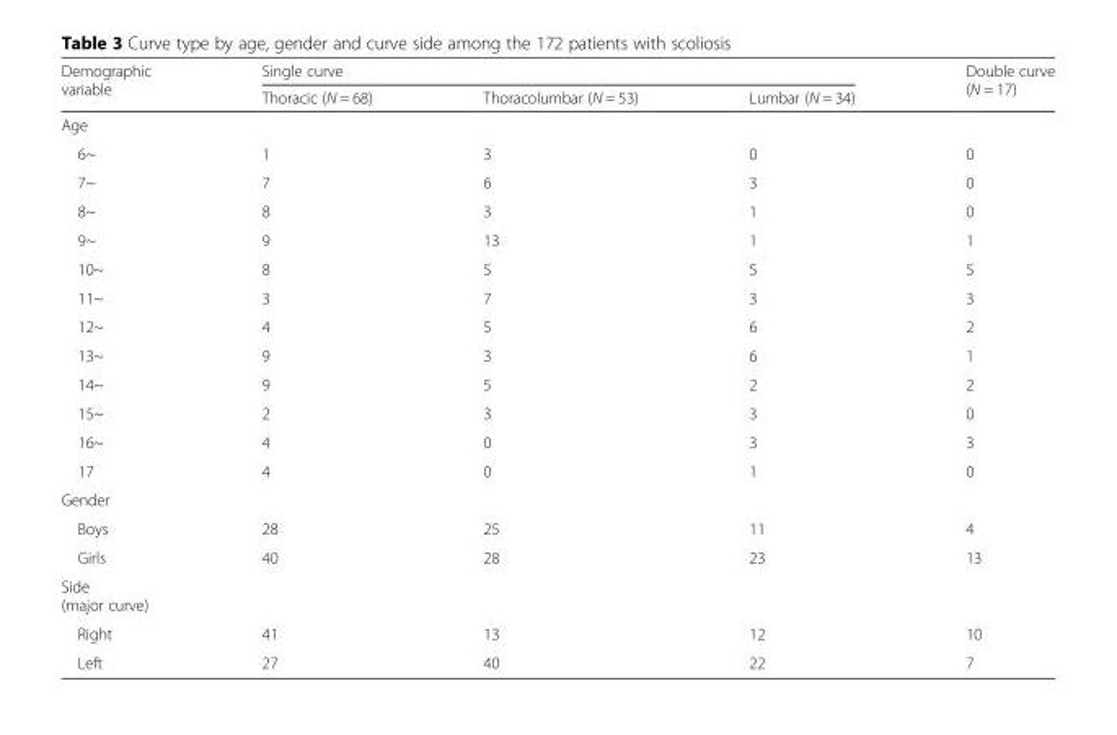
<table><thead><tr><td rowspan="2">Demographic variable</td><td colspan="3">Single curve</td><td rowspan="2">Double curve (N = 17)</td></tr><tr><td>Thoracic (N = 68)</td><td>Thoracolumbar (N = 53)</td><td>Lumbar (N = 34)</td></tr></thead><tbody><tr><td colspan="5">Age</td></tr><tr><td>6~</td><td>1</td><td>3</td><td>0</td><td>0</td></tr><tr><td>7~</td><td>7</td><td>6</td><td>3</td><td>0</td></tr><tr><td>8~</td><td>8</td><td>3</td><td>1</td><td>0</td></tr><tr><td>9~</td><td>9</td><td>13</td><td>1</td><td>1</td></tr><tr><td>10~</td><td>8</td><td>5</td><td>5</td><td>5</td></tr><tr><td>11~</td><td>3</td><td>7</td><td>3</td><td>3</td></tr><tr><td>12~</td><td>4</td><td>5</td><td>6</td><td>2</td></tr><tr><td>13~</td><td>9</td><td>3</td><td>6</td><td>1</td></tr><tr><td>14~</td><td>9</td><td>5</td><td>2</td><td>2</td></tr><tr><td>15~</td><td>2</td><td>3</td><td>3</td><td>0</td></tr><tr><td>16~</td><td>4</td><td>0</td><td>3</td><td>3</td></tr><tr><td>17</td><td>4</td><td>0</td><td>1</td><td>0</td></tr><tr><td colspan="5">Gender</td></tr><tr><td>Boys</td><td>28</td><td>25</td><td>11</td><td>4</td></tr><tr><td>Girls</td><td>40</td><td>28</td><td>23</td><td>13</td></tr><tr><td colspan="5">Side (major curve)</td></tr><tr><td>Right</td><td>41</td><td>13</td><td>12</td><td>10</td></tr><tr><td>Left</td><td>27</td><td>40</td><td>22</td><td>7</td></tr></tbody></table>